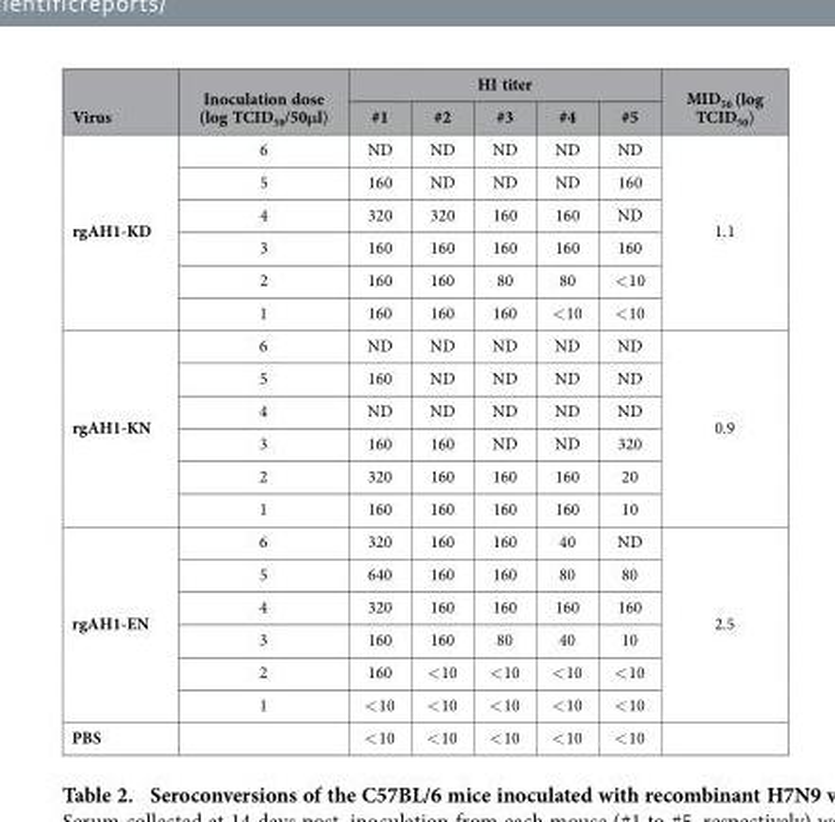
<table><thead><tr><td rowspan="2">Virus</td><td rowspan="2">Inoculation dose (log TCID<sub>50</sub>/50μl)</td><td colspan="5">HI titer</td><td rowspan="2">MID<sub>50</sub> (log TCID<sub>50</sub>)</td></tr><tr><td>#1</td><td>#2</td><td>#3</td><td>#4</td><td>#5</td></tr></thead><tbody><tr><td rowspan="6">rgAH1-KD</td><td>6</td><td>ND</td><td>ND</td><td>ND</td><td>ND</td><td>ND</td><td rowspan="6">1.1</td></tr><tr><td>5</td><td>160</td><td>ND</td><td>ND</td><td>ND</td><td>160</td></tr><tr><td>4</td><td>320</td><td>320</td><td>160</td><td>160</td><td>ND</td></tr><tr><td>3</td><td>160</td><td>160</td><td>160</td><td>160</td><td>160</td></tr><tr><td>2</td><td>160</td><td>160</td><td>80</td><td>80</td><td>&lt; 10</td></tr><tr><td>1</td><td>160</td><td>160</td><td>160</td><td>&lt; 10</td><td>&lt; 10</td></tr><tr><td rowspan="6">rgAH1-KN</td><td>6</td><td>ND</td><td>ND</td><td>ND</td><td>ND</td><td>ND</td><td rowspan="6">0.9</td></tr><tr><td>5</td><td>160</td><td>ND</td><td>ND</td><td>ND</td><td>ND</td></tr><tr><td>4</td><td>ND</td><td>ND</td><td>ND</td><td>ND</td><td>ND</td></tr><tr><td>3</td><td>160</td><td>160</td><td>ND</td><td>ND</td><td>320</td></tr><tr><td>2</td><td>320</td><td>160</td><td>160</td><td>160</td><td>20</td></tr><tr><td>1</td><td>160</td><td>160</td><td>160</td><td>160</td><td>10</td></tr><tr><td rowspan="6">rgAH1-EN</td><td>6</td><td>320</td><td>160</td><td>160</td><td>40</td><td>ND</td><td rowspan="6">2.5</td></tr><tr><td>5</td><td>640</td><td>160</td><td>160</td><td>80</td><td>80</td></tr><tr><td>4</td><td>320</td><td>160</td><td>160</td><td>160</td><td>160</td></tr><tr><td>3</td><td>160</td><td>160</td><td>80</td><td>40</td><td>10</td></tr><tr><td>2</td><td>160</td><td>&lt; 10</td><td>&lt; 10</td><td>&lt; 10</td><td>&lt; 10</td></tr><tr><td>1</td><td>&lt; 10</td><td>&lt; 10</td><td>&lt; 10</td><td>&lt; 10</td><td>&lt; 10</td></tr><tr><td>PBS</td><td></td><td>&lt; 10</td><td>&lt; 10</td><td>&lt; 10</td><td>&lt; 10</td><td>&lt; 10</td><td></td></tr></tbody></table>